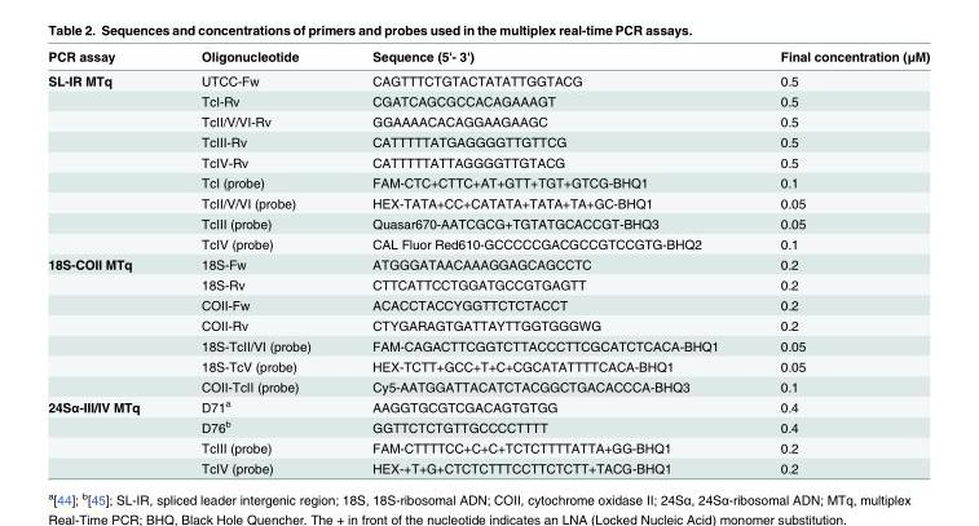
<table><thead><tr><td>PCR assay</td><td>Oligonucleotide</td><td>Sequence (5&#x27;- 3&#x27;)</td><td>Final concentration (μM)</td></tr></thead><tbody><tr><td rowspan="9">SL-IR MTq</td><td>UTCC-Fw</td><td>CAGTTTCTGTACTATATTGGTACG</td><td>0.5</td></tr><tr><td>TcI-Rv</td><td>CGATCAGCGCCACAGAAAGT</td><td>0.5</td></tr><tr><td>TcII/V/VI-Rv</td><td>GGAAAACACAGGAAGAAGC</td><td>0.5</td></tr><tr><td>TcIII-Rv</td><td>CATTTTTATGAGGGGTTGTTCG</td><td>0.5</td></tr><tr><td>TcIV-Rv</td><td>CATTTTTATTAGGGGTTGTACG</td><td>0.5</td></tr><tr><td>TcI (probe)</td><td>FAM-CTC+CTTC+AT+GTT+TGT+GTCG-BHQ1</td><td>0.1</td></tr><tr><td>TcII/V/VI (probe)</td><td>HEX-TATA+CC+CATATA+TATA+TA+GC-BHQ1</td><td>0.05</td></tr><tr><td>TcIII (probe)</td><td>Quasar670-AATCGCG+TGTATGCACCGT-BHQ3</td><td>0.05</td></tr><tr><td>TcIV (probe)</td><td>CAL Fluor Red610-GCCCCCGACGCCGTCCGTG-BHQ2</td><td>0.1</td></tr><tr><td rowspan="7">18S-COII MTq</td><td>18S-Fw</td><td>ATGGGATAACAAAGGAGCAGCCTC</td><td>0.2</td></tr><tr><td>18S-Rv</td><td>CTTCATTCCTGGATGCCGTGAGTT</td><td>0.2</td></tr><tr><td>COII-Fw</td><td>ACACCTACCYGGTTCTCTACCT</td><td>0.2</td></tr><tr><td>COII-Rv</td><td>CTYGARAGTGATTAYTTGGTGGGWG</td><td>0.2</td></tr><tr><td>18S-TcII/VI (probe)</td><td>FAM-CAGACTTCGGTCTTACCCTTCGCATCTCACA-BHQ1</td><td>0.05</td></tr><tr><td>18S-TcV (probe)</td><td>HEX-TCTT+GCC+T+C+CGCATATTTTCACA-BHQ1</td><td>0.05</td></tr><tr><td>COII-TcII (probe)</td><td>Cy5-AATGGATTACATCTACGGCTGACACCCA-BHQ3</td><td>0.1</td></tr><tr><td rowspan="4">24Sα-III/IV MTq</td><td>D71<sup>a</sup></td><td>AAGGTGCGTCGACAGTGTGG</td><td>0.4</td></tr><tr><td>D76<sup>b</sup></td><td>GGTTCTCTGTTGCCCCTTTT</td><td>0.4</td></tr><tr><td>TcIII (probe)</td><td>FAM-CTTTTCC+C+C+TCTCTTTTATTA+GG-BHQ1</td><td>0.2</td></tr><tr><td>TcIV (probe)</td><td>HEX-+T+G+CTCTCTTTCCTTCTCTT+TACG-BHQ1</td><td>0.2</td></tr></tbody></table>